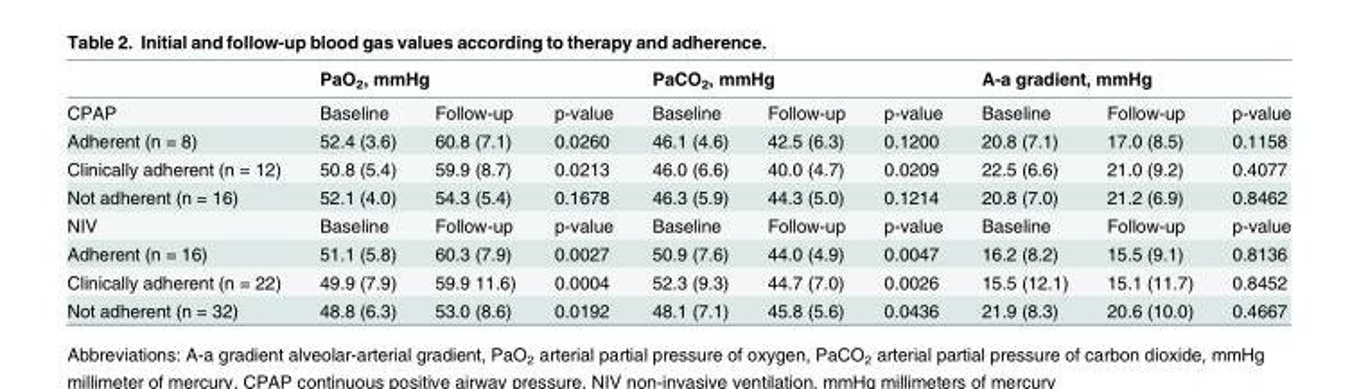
<table><thead><tr><td rowspan="2">CPAP</td><td colspan="3">PaO<sub>2</sub>, mmHg</td><td colspan="3">PaCO<sub>2</sub>, mmHg</td><td colspan="3">A-a gradient, mmHg</td></tr><tr><td>Baseline</td><td>Follow-up</td><td>p-value</td><td>Baseline</td><td>Follow-up</td><td>p-value</td><td>Baseline</td><td>Follow-up</td><td>p-value</td></tr></thead><tbody><tr><td>Adherent (n = 8)</td><td>52.4 (3.6)</td><td>60.8 (7.1)</td><td>0.0260</td><td>46.1 (4.6)</td><td>42.5 (6.3)</td><td>0.1200</td><td>20.8 (7.1)</td><td>17.0 (8.5)</td><td>0.1158</td></tr><tr><td>Clinically adherent (n = 12)</td><td>50.8 (5.4)</td><td>59.9 (8.7)</td><td>0.0213</td><td>46.0 (6.6)</td><td>40.0 (4.7)</td><td>0.0209</td><td>22.5 (6.6)</td><td>21.0 (9.2)</td><td>0.4077</td></tr><tr><td>Not adherent (n = 16)</td><td>52.1 (4.0)</td><td>54.3 (5.4)</td><td>0.1678</td><td>46.3 (5.9)</td><td>44.3 (5.0)</td><td>0.1214</td><td>20.8 (7.0)</td><td>21.2 (6.9)</td><td>0.8462</td></tr><tr><td>NIV</td><td>Baseline</td><td>Follow-up</td><td>p-value</td><td>Baseline</td><td>Follow-up</td><td>p-value</td><td>Baseline</td><td>Follow-up</td><td>p-value</td></tr><tr><td>Adherent (n = 16)</td><td>51.1 (5.8)</td><td>60.3 (7.9)</td><td>0.0027</td><td>50.9 (7.6)</td><td>44.0 (4.9)</td><td>0.0047</td><td>16.2 (8.2)</td><td>15.5 (9.1)</td><td>0.8136</td></tr><tr><td>Clinically adherent (n = 22)</td><td>49.9 (7.9)</td><td>59.9 11.6)</td><td>0.0004</td><td>52.3 (9.3)</td><td>44.7 (7.0)</td><td>0.0026</td><td>15.5 (12.1)</td><td>15.1 (11.7)</td><td>0.8452</td></tr><tr><td>Not adherent (n = 32)</td><td>48.8 (6.3)</td><td>53.0 (8.6)</td><td>0.0192</td><td>48.1 (7.1)</td><td>45.8 (5.6)</td><td>0.0436</td><td>21.9 (8.3)</td><td>20.6 (10.0)</td><td>0.4667</td></tr></tbody></table>